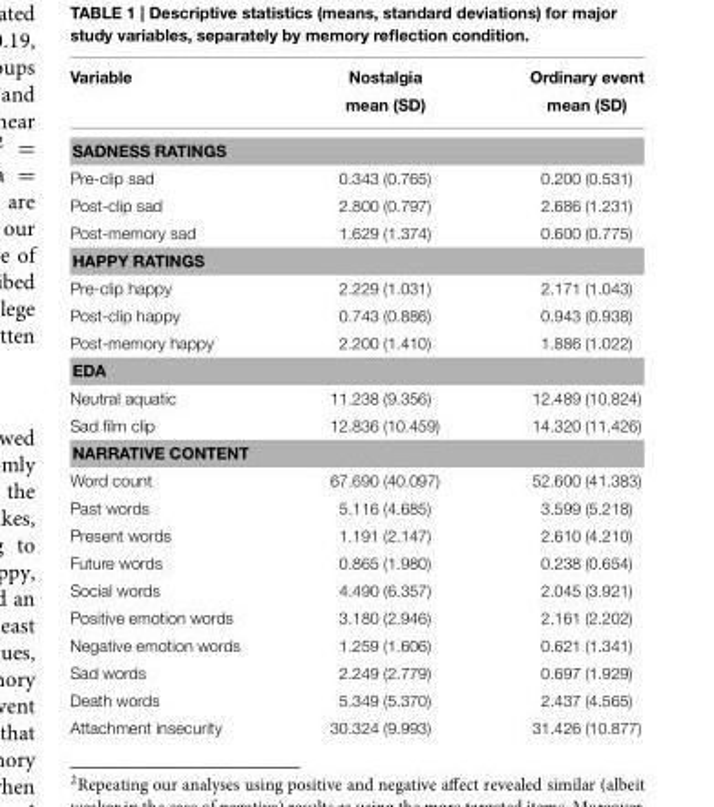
<table><thead><tr><td>Variable</td><td>Nostalgia mean (SD)</td><td>Ordinary event mean (SD)</td></tr></thead><tbody><tr><td colspan="3">SADNESS RATINGS</td></tr><tr><td>Pre-clip sad</td><td>0.343 (0.765)</td><td>0.200 (0.531)</td></tr><tr><td>Post-clip sad</td><td>2.800 (0.797)</td><td>2.686 (1.231)</td></tr><tr><td>Post-memory sad</td><td>1.629 (1.374)</td><td>0.600 (0.775)</td></tr><tr><td colspan="3">HAPPY RATINGS</td></tr><tr><td>Pre-clip happy</td><td>2.229 (1.031)</td><td>2.171 (1.043)</td></tr><tr><td>Post-clip happy</td><td>0.743 (0.886)</td><td>0.943 (0.938)</td></tr><tr><td>Post-memory happy</td><td>2.200 (1.410)</td><td>1.886 (1.022)</td></tr><tr><td colspan="3">EDA</td></tr><tr><td>Neutral aquatic</td><td>11.238 (9.356)</td><td>12.489 (10.824)</td></tr><tr><td>Sad film clip</td><td>12.836 (10.459)</td><td>14.320 (11.426)</td></tr><tr><td colspan="3">NARRATIVE CONTENT</td></tr><tr><td>Word count</td><td>67.690 (40.097)</td><td>52.600 (41.383)</td></tr><tr><td>Past words</td><td>5.116 (4.685)</td><td>3.599 (5.218)</td></tr><tr><td>Present words</td><td>1.191 (2.147)</td><td>2.610 (4.210)</td></tr><tr><td>Future words</td><td>0.865 (1.980)</td><td>0.238 (0.654)</td></tr><tr><td>Social words</td><td>4.490 (6.357)</td><td>2.045 (3.921)</td></tr><tr><td>Positive emotion words</td><td>3.180 (2.946)</td><td>2.161 (2.202)</td></tr><tr><td>Negative emotion words</td><td>1.259 (1.606)</td><td>0.621 (1.341)</td></tr><tr><td>Sad words</td><td>2.249 (2.779)</td><td>0.697 (1.929)</td></tr><tr><td>Death words</td><td>5.349 (5.370)</td><td>2.437 (4.565)</td></tr><tr><td>Attachment insecurity</td><td>30.324 (9.993)</td><td>31.426 (10.877)</td></tr></tbody></table>